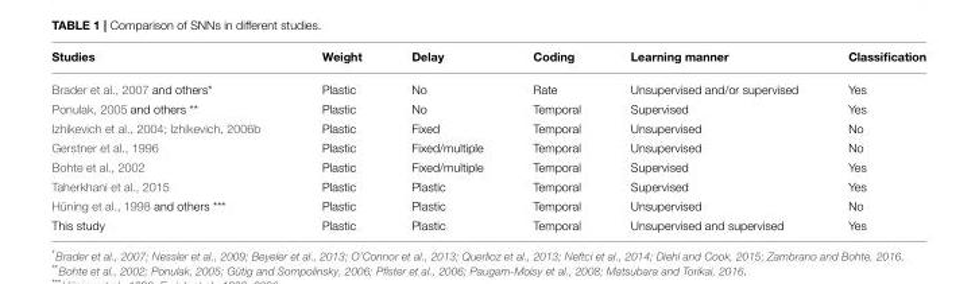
<table><thead><tr><td>Studies</td><td>Weight</td><td>Delay</td><td>Coding</td><td>Learning manner</td><td>Classification</td></tr></thead><tbody><tr><td>Brader et al., 2007 and others*</td><td>Plastic</td><td>No</td><td>Rate</td><td>Unsupervised and/or supervised</td><td>Yes</td></tr><tr><td>Ponulak, 2005 and others **</td><td>Plastic</td><td>No</td><td>Temporal</td><td>Supervised</td><td>Yes</td></tr><tr><td>Izhikevich et al., 2004; Izhikevich, 2006b</td><td>Plastic</td><td>Fixed</td><td>Temporal</td><td>Unsupervised</td><td>No</td></tr><tr><td>Gerstner et al., 1996</td><td>Plastic</td><td>Fixed/multiple</td><td>Temporal</td><td>Unsupervised</td><td>No</td></tr><tr><td>Bohte et al., 2002</td><td>Plastic</td><td>Fixed/multiple</td><td>Temporal</td><td>Supervised</td><td>Yes</td></tr><tr><td>Taherkhani et al., 2015</td><td>Plastic</td><td>Plastic</td><td>Temporal</td><td>Supervised</td><td>Yes</td></tr><tr><td>Hüning et al., 1998 and others ***</td><td>Plastic</td><td>Plastic</td><td>Temporal</td><td>Unsupervised</td><td>No</td></tr><tr><td>This study</td><td>Plastic</td><td>Plastic</td><td>Temporal</td><td>Unsupervised and supervised</td><td>Yes</td></tr></tbody></table>